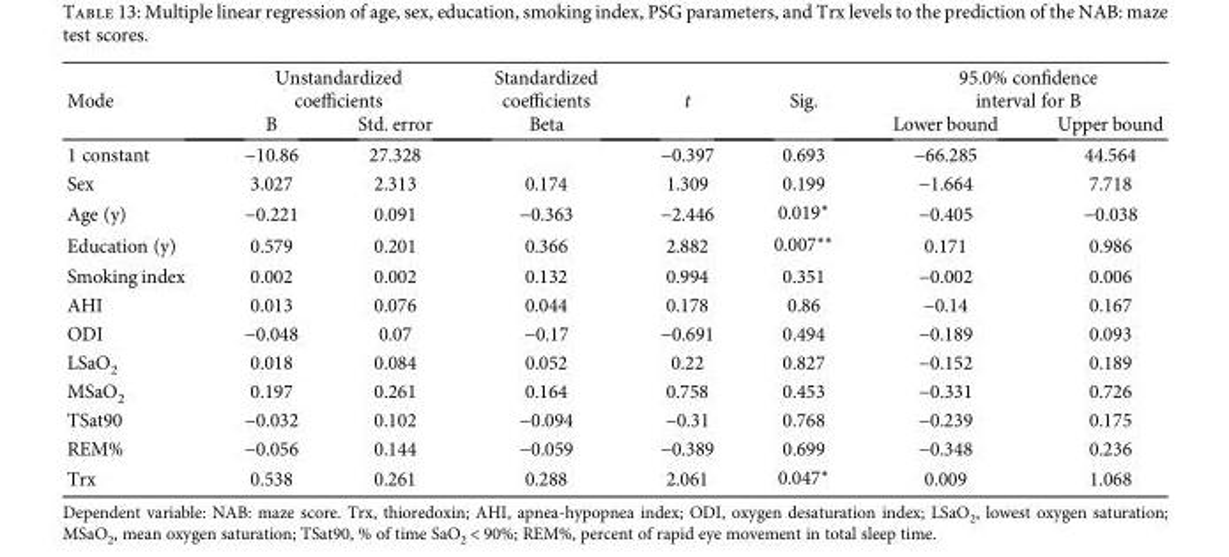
<table><thead><tr><td rowspan="2">Mode</td><td colspan="2">Unstandardized coefficients</td><td rowspan="2">Standardized coefficients Beta</td><td rowspan="2">t</td><td rowspan="2">Sig.</td><td colspan="2">95.0% confidence interval for B</td></tr><tr><td>B</td><td>Std. error</td><td>Lower bound</td><td>Upper bound</td></tr></thead><tbody><tr><td>1 constant</td><td>−10.86</td><td>27.328</td><td></td><td>−0.397</td><td>0.693</td><td>−66.285</td><td>44.564</td></tr><tr><td>Sex</td><td>3.027</td><td>2.313</td><td>0.174</td><td>1.309</td><td>0.199</td><td>−1.664</td><td>7.718</td></tr><tr><td>Age (y)</td><td>−0.221</td><td>0.091</td><td>−0.363</td><td>−2.446</td><td>0.019∗</td><td>−0.405</td><td>−0.038</td></tr><tr><td>Education (y)</td><td>0.579</td><td>0.201</td><td>0.366</td><td>2.882</td><td>0.007∗∗</td><td>0.171</td><td>0.986</td></tr><tr><td>Smoking index</td><td>0.002</td><td>0.002</td><td>0.132</td><td>0.994</td><td>0.351</td><td>−0.002</td><td>0.006</td></tr><tr><td>AHI</td><td>0.013</td><td>0.076</td><td>0.044</td><td>0.178</td><td>0.86</td><td>−0.14</td><td>0.167</td></tr><tr><td>ODI</td><td>−0.048</td><td>0.07</td><td>−0.17</td><td>−0.691</td><td>0.494</td><td>−0.189</td><td>0.093</td></tr><tr><td>LSaO<sub>2</sub></td><td>0.018</td><td>0.084</td><td>0.052</td><td>0.22</td><td>0.827</td><td>−0.152</td><td>0.189</td></tr><tr><td>MSaO<sub>2</sub></td><td>0.197</td><td>0.261</td><td>0.164</td><td>0.758</td><td>0.453</td><td>−0.331</td><td>0.726</td></tr><tr><td>TSat90</td><td>−0.032</td><td>0.102</td><td>−0.094</td><td>−0.31</td><td>0.768</td><td>−0.239</td><td>0.175</td></tr><tr><td>REM%</td><td>−0.056</td><td>0.144</td><td>−0.059</td><td>−0.389</td><td>0.699</td><td>−0.348</td><td>0.236</td></tr><tr><td>Trx</td><td>0.538</td><td>0.261</td><td>0.288</td><td>2.061</td><td>0.047∗</td><td>0.009</td><td>1.068</td></tr></tbody></table>